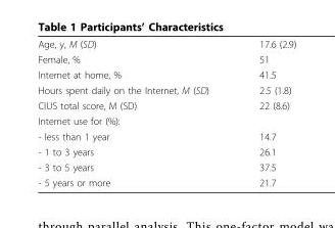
<table><tbody><tr><td>Age, y, M (SD)</td><td>17.6 (2.9)</td></tr><tr><td>Female, %</td><td>51</td></tr><tr><td>Internet at home, %</td><td>41.5</td></tr><tr><td>Hours spent daily on the Internet, M (SD)</td><td>2.5 (1.8)</td></tr><tr><td>CIUS total score, M (SD)</td><td>22 (8.6)</td></tr><tr><td colspan="2">Internet use for (%):</td></tr><tr><td>- less than 1 year</td><td>14.7</td></tr><tr><td>- 1 to 3 years</td><td>26.1</td></tr><tr><td>- 3 to 5 years</td><td>37.5</td></tr><tr><td>- 5 years or more</td><td>21.7</td></tr></tbody></table>